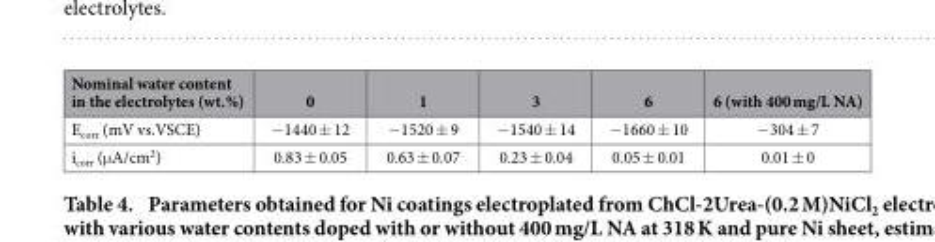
<table><thead><tr><td>Nominal water content in the electrolytes (wt.%)</td><td>0</td><td>1</td><td>3</td><td>6</td><td>6 (with 400 mg/L NA)</td></tr></thead><tbody><tr><td>E<sub>corr</sub> (mV vs.VSCE)</td><td>− 1440 ± 12</td><td>− 1520 ± 9</td><td>− 1540 ± 14</td><td>− 1660 ± 10</td><td>− 304 ± 7</td></tr><tr><td>i<sub>corr</sub> (μ A/cm<sup>2</sup>)</td><td>0.83 ± 0.05</td><td>0.63 ± 0.07</td><td>0.23 ± 0.04</td><td>0.05 ± 0.01</td><td>0.01 ± 0</td></tr></tbody></table>